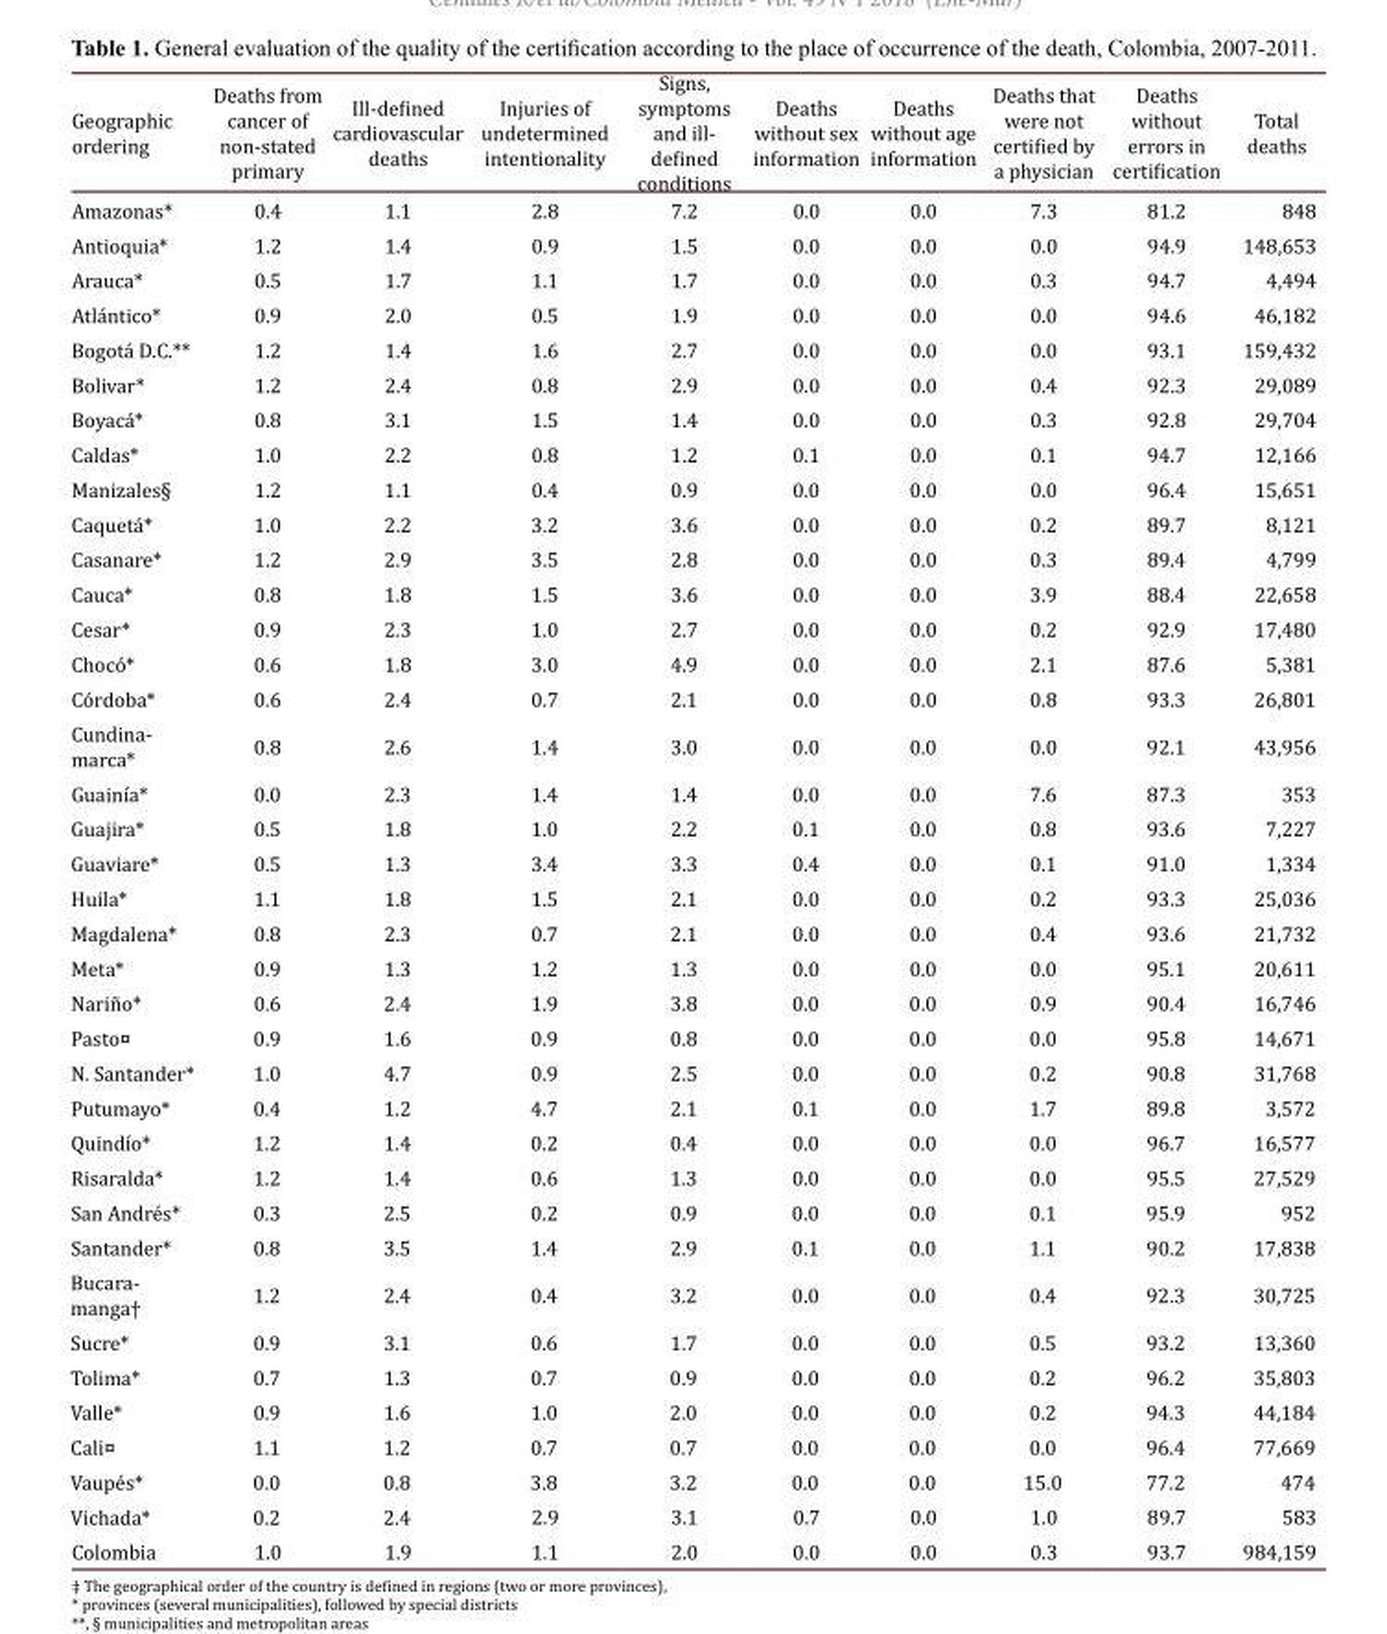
<table><thead><tr><td>Geographic ordering</td><td>Deaths from cancer of non-stated primary</td><td>Ill-defined cardiovascular deaths</td><td>Injuries of undetermined intentionality</td><td>Signs, symptoms and ill- defined conditions</td><td>Deaths without sex information</td><td>Deaths without age information</td><td>Deaths that were not certified by a physician</td><td>Deaths without errors in certification</td><td>Total deaths</td></tr></thead><tbody><tr><td>Amazonas*</td><td>0.4</td><td>1.1</td><td>2.8</td><td>7.2</td><td>0.0</td><td>0.0</td><td>7.3</td><td>81.2</td><td>848</td></tr><tr><td>Antioquia*</td><td>1.2</td><td>1.4</td><td>0.9</td><td>1.5</td><td>0.0</td><td>0.0</td><td>0.0</td><td>94.9</td><td>148,653</td></tr><tr><td>Arauca*</td><td>0.5</td><td>1.7</td><td>1.1</td><td>1.7</td><td>0.0</td><td>0.0</td><td>0.3</td><td>94.7</td><td>4,494</td></tr><tr><td>Atlántico*</td><td>0.9</td><td>2.0</td><td>0.5</td><td>1.9</td><td>0.0</td><td>0.0</td><td>0.0</td><td>94.6</td><td>46,182</td></tr><tr><td>Bogotá D.C.**</td><td>1.2</td><td>1.4</td><td>1.6</td><td>2.7</td><td>0.0</td><td>0.0</td><td>0.0</td><td>93.1</td><td>159,432</td></tr><tr><td>Bolivar*</td><td>1.2</td><td>2.4</td><td>0.8</td><td>2.9</td><td>0.0</td><td>0.0</td><td>0.4</td><td>92.3</td><td>29,089</td></tr><tr><td>Boyacá*</td><td>0.8</td><td>3.1</td><td>1.5</td><td>1.4</td><td>0.0</td><td>0.0</td><td>0.3</td><td>92.8</td><td>29,704</td></tr><tr><td>Caldas*</td><td>1.0</td><td>2.2</td><td>0.8</td><td>1.2</td><td>0.1</td><td>0.0</td><td>0.1</td><td>94.7</td><td>12,166</td></tr><tr><td>Manizales§</td><td>1.2</td><td>1.1</td><td>0.4</td><td>0.9</td><td>0.0</td><td>0.0</td><td>0.0</td><td>96.4</td><td>15,651</td></tr><tr><td>Caquetá*</td><td>1.0</td><td>2.2</td><td>3.2</td><td>3.6</td><td>0.0</td><td>0.0</td><td>0.2</td><td>89.7</td><td>8,121</td></tr><tr><td>Casanare*</td><td>1.2</td><td>2.9</td><td>3.5</td><td>2.8</td><td>0.0</td><td>0.0</td><td>0.3</td><td>89.4</td><td>4,799</td></tr><tr><td>Cauca*</td><td>0.8</td><td>1.8</td><td>1.5</td><td>3.6</td><td>0.0</td><td>0.0</td><td>3.9</td><td>88.4</td><td>22,658</td></tr><tr><td>Cesar*</td><td>0.9</td><td>2.3</td><td>1.0</td><td>2.7</td><td>0.0</td><td>0.0</td><td>0.2</td><td>92.9</td><td>17,480</td></tr><tr><td>Chocó*</td><td>0.6</td><td>1.8</td><td>3.0</td><td>4.9</td><td>0.0</td><td>0.0</td><td>2.1</td><td>87.6</td><td>5,381</td></tr><tr><td>Córdoba*</td><td>0.6</td><td>2.4</td><td>0.7</td><td>2.1</td><td>0.0</td><td>0.0</td><td>0.8</td><td>93.3</td><td>26,801</td></tr><tr><td>Cundina- marca*</td><td>0.8</td><td>2.6</td><td>1.4</td><td>3.0</td><td>0.0</td><td>0.0</td><td>0.0</td><td>92.1</td><td>43,956</td></tr><tr><td>Guainía*</td><td>0.0</td><td>2.3</td><td>1.4</td><td>1.4</td><td>0.0</td><td>0.0</td><td>7.6</td><td>87.3</td><td>353</td></tr><tr><td>Guajira*</td><td>0.5</td><td>1.8</td><td>1.0</td><td>2.2</td><td>0.1</td><td>0.0</td><td>0.8</td><td>93.6</td><td>7,227</td></tr><tr><td>Guaviare*</td><td>0.5</td><td>1.3</td><td>3.4</td><td>3.3</td><td>0.4</td><td>0.0</td><td>0.1</td><td>91.0</td><td>1,334</td></tr><tr><td>Huila*</td><td>1.1</td><td>1.8</td><td>1.5</td><td>2.1</td><td>0.0</td><td>0.0</td><td>0.2</td><td>93.3</td><td>25,036</td></tr><tr><td>Magdalena*</td><td>0.8</td><td>2.3</td><td>0.7</td><td>2.1</td><td>0.0</td><td>0.0</td><td>0.4</td><td>93.6</td><td>21,732</td></tr><tr><td>Meta*</td><td>0.9</td><td>1.3</td><td>1.2</td><td>1.3</td><td>0.0</td><td>0.0</td><td>0.0</td><td>95.1</td><td>20,611</td></tr><tr><td>Nariño*</td><td>0.6</td><td>2.4</td><td>1.9</td><td>3.8</td><td>0.0</td><td>0.0</td><td>0.9</td><td>90.4</td><td>16,746</td></tr><tr><td>Pasto¤</td><td>0.9</td><td>1.6</td><td>0.9</td><td>0.8</td><td>0.0</td><td>0.0</td><td>0.0</td><td>95.8</td><td>14,671</td></tr><tr><td>N. Santander*</td><td>1.0</td><td>4.7</td><td>0.9</td><td>2.5</td><td>0.0</td><td>0.0</td><td>0.2</td><td>90.8</td><td>31,768</td></tr><tr><td>Putumayo*</td><td>0.4</td><td>1.2</td><td>4.7</td><td>2.1</td><td>0.1</td><td>0.0</td><td>1.7</td><td>89.8</td><td>3,572</td></tr><tr><td>Quindío*</td><td>1.2</td><td>1.4</td><td>0.2</td><td>0.4</td><td>0.0</td><td>0.0</td><td>0.0</td><td>96.7</td><td>16,577</td></tr><tr><td>Risaralda*</td><td>1.2</td><td>1.4</td><td>0.6</td><td>1.3</td><td>0.0</td><td>0.0</td><td>0.0</td><td>95.5</td><td>27,529</td></tr><tr><td>San Andrés*</td><td>0.3</td><td>2.5</td><td>0.2</td><td>0.9</td><td>0.0</td><td>0.0</td><td>0.1</td><td>95.9</td><td>952</td></tr><tr><td>Santander*</td><td>0.8</td><td>3.5</td><td>1.4</td><td>2.9</td><td>0.1</td><td>0.0</td><td>1.1</td><td>90.2</td><td>17,838</td></tr><tr><td>Bucara- manga†</td><td>1.2</td><td>2.4</td><td>0.4</td><td>3.2</td><td>0.0</td><td>0.0</td><td>0.4</td><td>92.3</td><td>30,725</td></tr><tr><td>Sucre*</td><td>0.9</td><td>3.1</td><td>0.6</td><td>1.7</td><td>0.0</td><td>0.0</td><td>0.5</td><td>93.2</td><td>13,360</td></tr><tr><td>Tolima*</td><td>0.7</td><td>1.3</td><td>0.7</td><td>0.9</td><td>0.0</td><td>0.0</td><td>0.2</td><td>96.2</td><td>35,803</td></tr><tr><td>Valle*</td><td>0.9</td><td>1.6</td><td>1.0</td><td>2.0</td><td>0.0</td><td>0.0</td><td>0.2</td><td>94.3</td><td>44,184</td></tr><tr><td>Cali¤</td><td>1.1</td><td>1.2</td><td>0.7</td><td>0.7</td><td>0.0</td><td>0.0</td><td>0.0</td><td>96.4</td><td>77,669</td></tr><tr><td>Vaupés*</td><td>0.0</td><td>0.8</td><td>3.8</td><td>3.2</td><td>0.0</td><td>0.0</td><td>15.0</td><td>77.2</td><td>474</td></tr><tr><td>Vichada*</td><td>0.2</td><td>2.4</td><td>2.9</td><td>3.1</td><td>0.7</td><td>0.0</td><td>1.0</td><td>89.7</td><td>583</td></tr><tr><td>Colombia</td><td>1.0</td><td>1.9</td><td>1.1</td><td>2.0</td><td>0.0</td><td>0.0</td><td>0.3</td><td>93.7</td><td>984,159</td></tr></tbody></table>